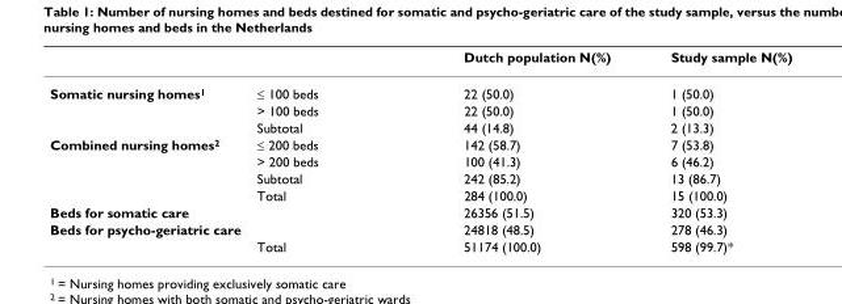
<table><thead><tr><td></td><td></td><td>Dutch population N(%)</td><td>Study sample N(%)</td></tr></thead><tbody><tr><td rowspan="3">Somatic nursing homes1</td><td>≤ 100 beds</td><td>22 (50.0)</td><td>1 (50.0)</td></tr><tr><td>&gt; 100 beds</td><td>22 (50.0)</td><td>1 (50.0)</td></tr><tr><td>Subtotal</td><td>44 (14.8)</td><td>2 (13.3)</td></tr><tr><td rowspan="4">Combined nursing homes2</td><td>≤ 200 beds</td><td>142 (58.7)</td><td>7 (53.8)</td></tr><tr><td>&gt; 200 beds</td><td>100 (41.3)</td><td>6 (46.2)</td></tr><tr><td>Subtotal</td><td>242 (85.2)</td><td>13 (86.7)</td></tr><tr><td>Total</td><td>284 (100.0)</td><td>15 (100.0)</td></tr><tr><td>Beds for somatic care</td><td></td><td>26356 (51.5)</td><td>320 (53.3)</td></tr><tr><td rowspan="2">Beds for psycho-geriatric care</td><td></td><td>24818 (48.5)</td><td>278 (46.3)</td></tr><tr><td>Total</td><td>51174 (100.0)</td><td>598 (99.7)*</td></tr></tbody></table>